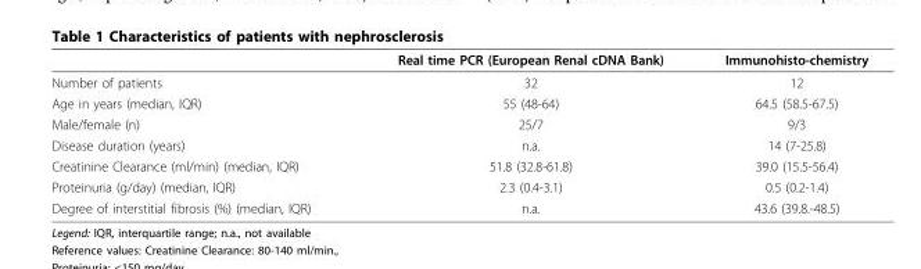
<table><thead><tr><td></td><td>Real time PCR (European Renal cDNA Bank)</td><td>Immunohisto-chemistry</td></tr></thead><tbody><tr><td>Number of patients</td><td>32</td><td>12</td></tr><tr><td>Age in years (median, IQR)</td><td>55 (48-64)</td><td>64.5 (58.5-67.5)</td></tr><tr><td>Male/female (n)</td><td>25/7</td><td>9/3</td></tr><tr><td>Disease duration (years)</td><td>n.a.</td><td>14 (7-25.8)</td></tr><tr><td>Creatinine Clearance (ml/min) (median, IQR)</td><td>51.8 (32.8-61.8)</td><td>39.0 (15.5-56.4)</td></tr><tr><td>Proteinuria (g/day) (median, IQR)</td><td>2.3 (0.4-3.1)</td><td>0.5 (0.2-1.4)</td></tr><tr><td>Degree of interstitial fibrosis (%) (median, IQR)</td><td>n.a.</td><td>43.6 (39.8.-48.5)</td></tr></tbody></table>